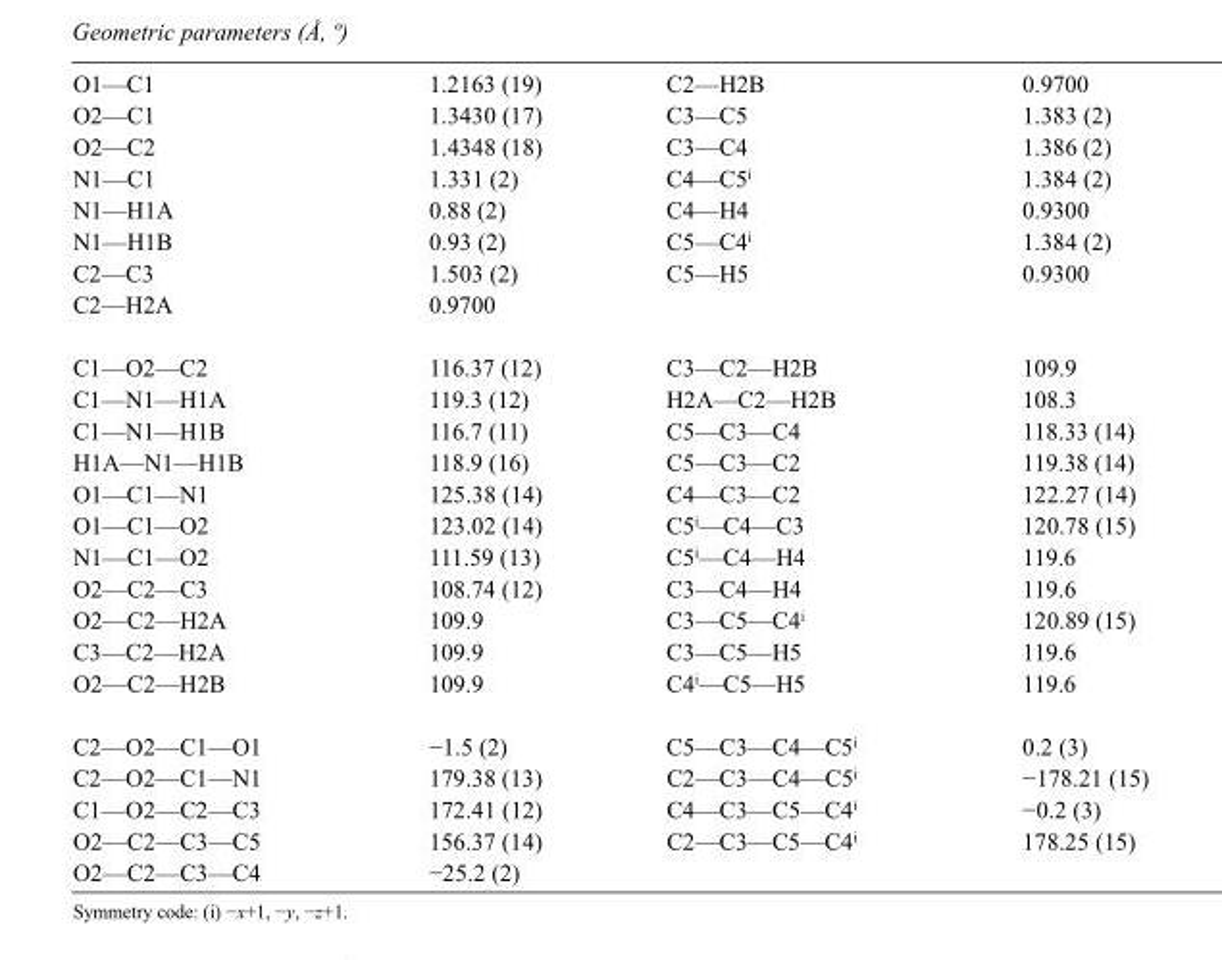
<table><tbody><tr><td>O1—C1</td><td>1.2163 (19)</td><td>C2—H2B</td><td>0.9700</td></tr><tr><td>O2—C1</td><td>1.3430 (17)</td><td>C3—C5</td><td>1.383 (2)</td></tr><tr><td>O2—C2</td><td>1.4348 (18)</td><td>C3—C4</td><td>1.386 (2)</td></tr><tr><td>N1—C1</td><td>1.331 (2)</td><td>C4—C5<sup>i</sup></td><td>1.384 (2)</td></tr><tr><td>N1—H1A</td><td>0.88 (2)</td><td>C4—H4</td><td>0.9300</td></tr><tr><td>N1—H1B</td><td>0.93 (2)</td><td>C5—C4<sup>i</sup></td><td>1.384 (2)</td></tr><tr><td>C2—C3</td><td>1.503 (2)</td><td>C5—H5</td><td>0.9300</td></tr><tr><td>C2—H2A</td><td>0.9700</td><td></td><td></td></tr><tr><td>C1—O2—C2</td><td>116.37 (12)</td><td>C3—C2—H2B</td><td>109.9</td></tr><tr><td>C1—N1—H1A</td><td>119.3 (12)</td><td>H2A—C2—H2B</td><td>108.3</td></tr><tr><td>C1—N1—H1B</td><td>116.7 (11)</td><td>C5—C3—C4</td><td>118.33 (14)</td></tr><tr><td>H1A—N1—H1B</td><td>118.9 (16)</td><td>C5—C3—C2</td><td>119.38 (14)</td></tr><tr><td>O1—C1—N1</td><td>125.38 (14)</td><td>C4—C3—C2</td><td>122.27 (14)</td></tr><tr><td>O1—C1—O2</td><td>123.02 (14)</td><td>C5<sup>i</sup>—C4—C3</td><td>120.78 (15)</td></tr><tr><td>N1—C1—O2</td><td>111.59 (13)</td><td>C5<sup>i</sup>—C4—H4</td><td>119.6</td></tr><tr><td>O2—C2—C3</td><td>108.74 (12)</td><td>C3—C4—H4</td><td>119.6</td></tr><tr><td>O2—C2—H2A</td><td>109.9</td><td>C3—C5—C4<sup>i</sup></td><td>120.89 (15)</td></tr><tr><td>C3—C2—H2A</td><td>109.9</td><td>C3—C5—H5</td><td>119.6</td></tr><tr><td>O2—C2—H2B</td><td>109.9</td><td>C4<sup>i</sup>—C5—H5</td><td>119.6</td></tr><tr><td>C2—O2—C1—O1</td><td>−1.5 (2)</td><td>C5—C3—C4—C5<sup>i</sup></td><td>0.2 (3)</td></tr><tr><td>C2—O2—C1—N1</td><td>179.38 (13)</td><td>C2—C3—C4—C5<sup>i</sup></td><td>−178.21 (15)</td></tr><tr><td>C1—O2—C2—C3</td><td>172.41 (12)</td><td>C4—C3—C5—C4<sup>i</sup></td><td>−0.2 (3)</td></tr><tr><td>O2—C2—C3—C5</td><td>156.37 (14)</td><td>C2—C3—C5—C4<sup>i</sup></td><td>178.25 (15)</td></tr><tr><td>O2—C2—C3—C4</td><td>−25.2 (2)</td><td></td><td></td></tr></tbody></table>